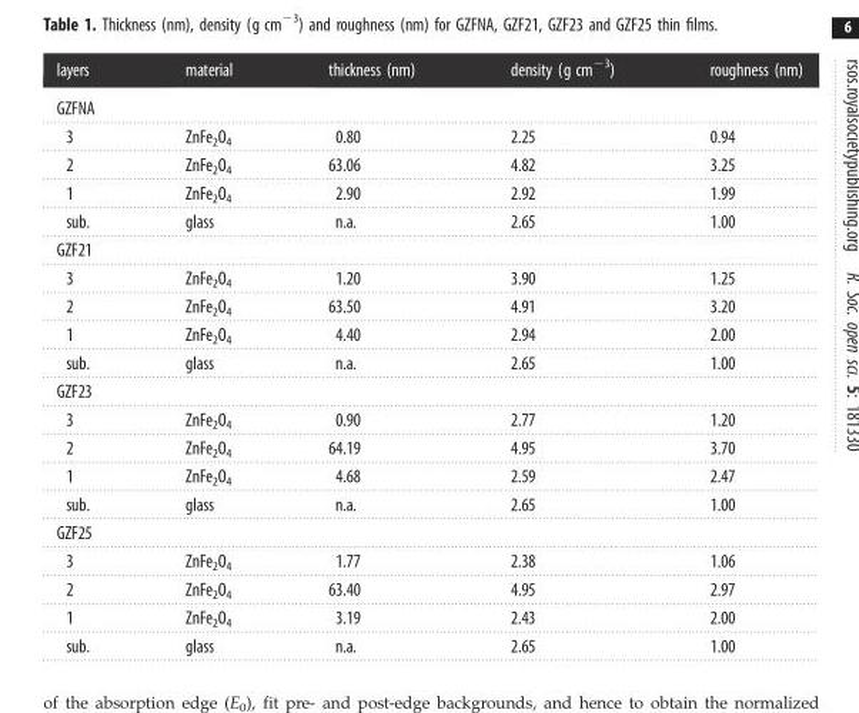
<table><thead><tr><td>layers</td><td>material</td><td>thickness (nm)</td><td>density (g cm<sup>−3</sup>)</td><td>roughness (nm)</td></tr></thead><tbody><tr><td colspan="5">GZFNA</td></tr><tr><td>3</td><td>ZnFe<sub>2</sub>O<sub>4</sub></td><td>0.80</td><td>2.25</td><td>0.94</td></tr><tr><td>2</td><td>ZnFe<sub>2</sub>O<sub>4</sub></td><td>63.06</td><td>4.82</td><td>3.25</td></tr><tr><td>1</td><td>ZnFe<sub>2</sub>O<sub>4</sub></td><td>2.90</td><td>2.92</td><td>1.99</td></tr><tr><td>sub.</td><td>glass</td><td>n.a.</td><td>2.65</td><td>1.00</td></tr><tr><td colspan="5">GZF21</td></tr><tr><td>3</td><td>ZnFe<sub>2</sub>O<sub>4</sub></td><td>1.20</td><td>3.90</td><td>1.25</td></tr><tr><td>2</td><td>ZnFe<sub>2</sub>O<sub>4</sub></td><td>63.50</td><td>4.91</td><td>3.20</td></tr><tr><td>1</td><td>ZnFe<sub>2</sub>O<sub>4</sub></td><td>4.40</td><td>2.94</td><td>2.00</td></tr><tr><td>sub.</td><td>glass</td><td>n.a.</td><td>2.65</td><td>1.00</td></tr><tr><td colspan="5">GZF23</td></tr><tr><td>3</td><td>ZnFe<sub>2</sub>O<sub>4</sub></td><td>0.90</td><td>2.77</td><td>1.20</td></tr><tr><td>2</td><td>ZnFe<sub>2</sub>O<sub>4</sub></td><td>64.19</td><td>4.95</td><td>3.70</td></tr><tr><td>1</td><td>ZnFe<sub>2</sub>O<sub>4</sub></td><td>4.68</td><td>2.59</td><td>2.47</td></tr><tr><td>sub.</td><td>glass</td><td>n.a.</td><td>2.65</td><td>1.00</td></tr><tr><td colspan="5">GZF25</td></tr><tr><td>3</td><td>ZnFe<sub>2</sub>O<sub>4</sub></td><td>1.77</td><td>2.38</td><td>1.06</td></tr><tr><td>2</td><td>ZnFe<sub>2</sub>O<sub>4</sub></td><td>63.40</td><td>4.95</td><td>2.97</td></tr><tr><td>1</td><td>ZnFe<sub>2</sub>O<sub>4</sub></td><td>3.19</td><td>2.43</td><td>2.00</td></tr><tr><td>sub.</td><td>glass</td><td>n.a.</td><td>2.65</td><td>1.00</td></tr></tbody></table>